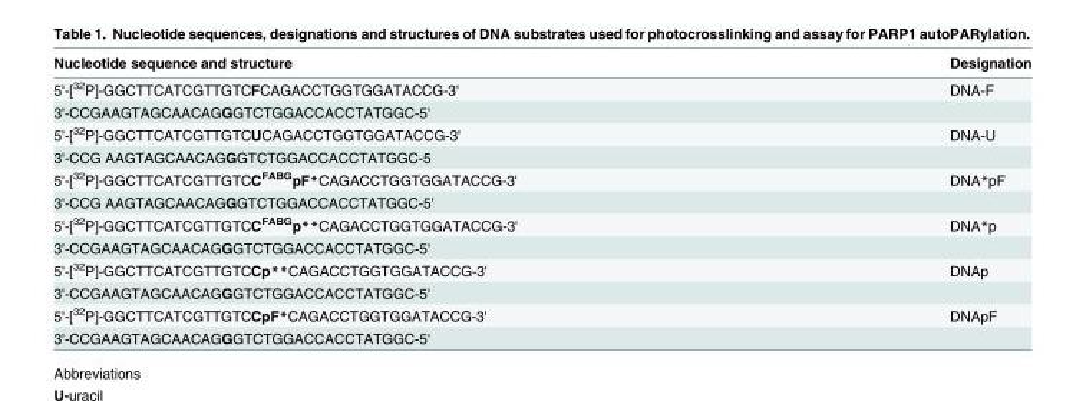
<table><thead><tr><td>Nucleotide sequence and structure</td><td>Designation</td></tr></thead><tbody><tr><td>5&#x27;-[<sup>32</sup>P]-GGCTTCATCGTTGTCFCAGACCTGGTGGATACCG-3&#x27;</td><td>DNA-F</td></tr><tr><td colspan="2">3&#x27;-CCGAAGTAGCAACAGGGTCTGGACCACCTATGGC-5&#x27;</td></tr><tr><td>5&#x27;-[<sup>32</sup>P]-GGCTTCATCGTTGTCUCAGACCTGGTGGATACCG-3&#x27;</td><td>DNA-U</td></tr><tr><td colspan="2">3&#x27;-CCG AAGTAGCAACAGGGTCTGGACCACCTATGGC-5</td></tr><tr><td>5&#x27;-[<sup>32</sup>P]-GGCTTCATCGTTGTCC<sup>FABG</sup>pF*CAGACCTGGTGGATACCG-3&#x27;</td><td>DNA*pF</td></tr><tr><td colspan="2">3&#x27;-CCG AAGTAGCAACAGGGTCTGGACCACCTATGGC-5&#x27;</td></tr><tr><td>5&#x27;-[<sup>32</sup>P]-GGCTTCATCGTTGTCC<sup>FABG</sup>p**CAGACCTGGTGGATACCG-3&#x27;</td><td>DNA*p</td></tr><tr><td colspan="2">3&#x27;-CCGAAGTAGCAACAGGGTCTGGACCACCTATGGC-5&#x27;</td></tr><tr><td>5&#x27;-[<sup>32</sup>P]-GGCTTCATCGTTGTCCp**CAGACCTGGTGGATACCG-3&#x27;</td><td>DNAp</td></tr><tr><td colspan="2">3&#x27;-CCGAAGTAGCAACAGGGTCTGGACCACCTATGGC-5&#x27;</td></tr><tr><td>5&#x27;-[<sup>32</sup>P]-GGCTTCATCGTTGTCCpF*CAGACCTGGTGGATACCG-3&#x27;</td><td>DNApF</td></tr><tr><td>3&#x27;-CCGAAGTAGCAACAGGGTCTGGACCACCTATGGC-5&#x27;</td><td></td></tr></tbody></table>